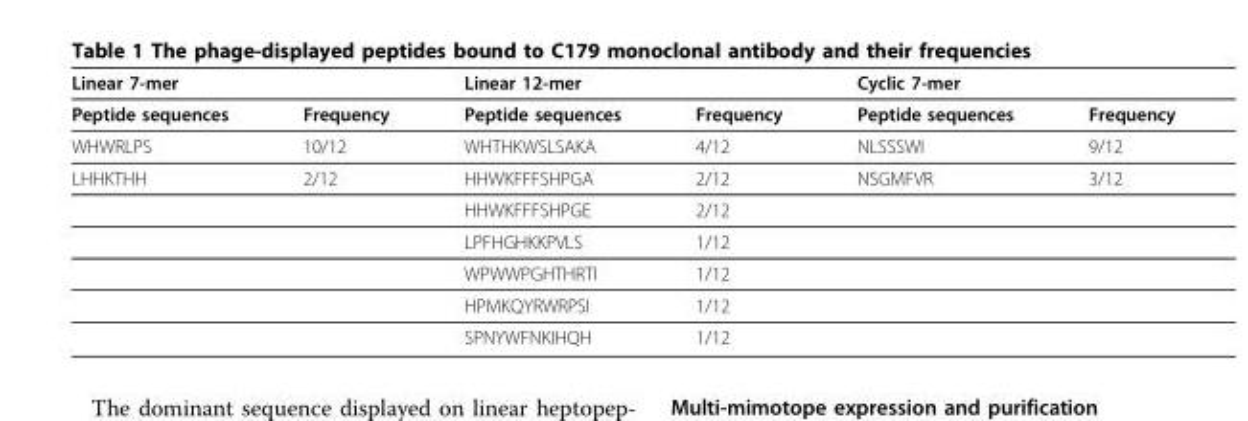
<table><thead><tr><td colspan="2">Linear 7-mer</td><td colspan="2">Linear 12-mer</td><td colspan="2">Cyclic 7-mer</td></tr><tr><td>Peptide sequences</td><td>Frequency</td><td>Peptide sequences</td><td>Frequency</td><td>Peptide sequences</td><td>Frequency</td></tr></thead><tbody><tr><td>WHWRLPS</td><td>10/12</td><td>WHTHKWSLSAKA</td><td>4/12</td><td>NLSSSWI</td><td>9/12</td></tr><tr><td rowspan="6">LHHKTHH</td><td>2/12</td><td>HHWKFFFSHPGA</td><td>2/12</td><td>NSGMFVR</td><td>3/12</td></tr><tr><td></td><td>HHWKFFFSHPGE</td><td>2/12</td><td></td><td></td></tr><tr><td></td><td>LPFHGHKKPVLS</td><td>1/12</td><td></td><td></td></tr><tr><td></td><td>WPWWPGHTHRTI</td><td>1/12</td><td></td><td></td></tr><tr><td></td><td>HPMKQYRWRPSI</td><td>1/12</td><td></td><td></td></tr><tr><td></td><td>SPNYWFNKIHQH</td><td>1/12</td><td></td><td></td></tr></tbody></table>